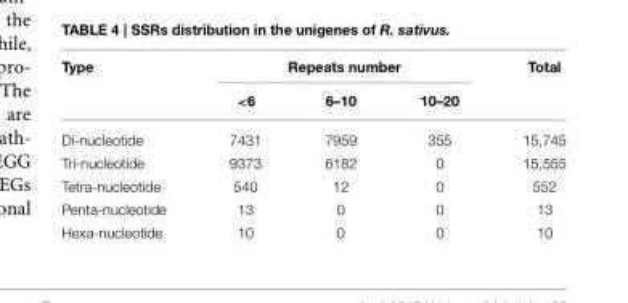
<table><thead><tr><td rowspan="2">Type</td><td colspan="3">Repeats number</td><td rowspan="2">Total</td></tr><tr><td>&lt;6</td><td>6–10</td><td>10–20</td></tr></thead><tbody><tr><td>Di-nucleotide</td><td>7431</td><td>7959</td><td>355</td><td>15,745</td></tr><tr><td>Tri-nucleotide</td><td>9373</td><td>6182</td><td>0</td><td>15,555</td></tr><tr><td>Tetra-nucleotide</td><td>540</td><td>12</td><td>0</td><td>552</td></tr><tr><td>Penta-nucleotide</td><td>13</td><td>0</td><td>0</td><td>13</td></tr><tr><td>Hexa-nucleotide</td><td>10</td><td>0</td><td>0</td><td>10</td></tr></tbody></table>